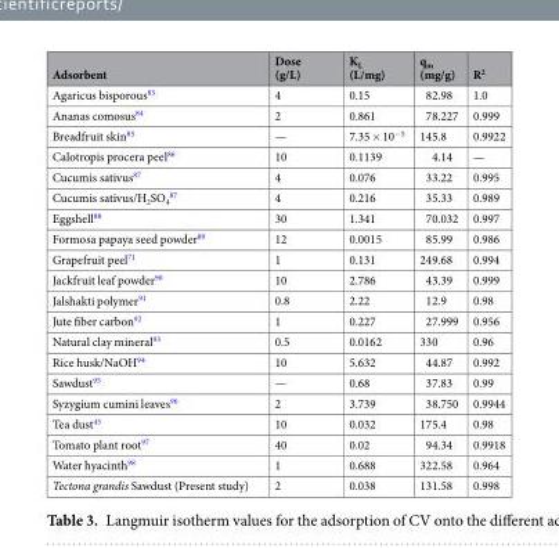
<table><thead><tr><td>Adsorbent</td><td>Dose (g/L)</td><td>K<sub>L</sub> (L/mg)</td><td>q<sub>m</sub> (mg/g)</td><td>R<sup>2</sup></td></tr></thead><tbody><tr><td>Agaricus bisporous<sup>83</sup></td><td>4</td><td>0.15</td><td>82.98</td><td>1.0</td></tr><tr><td>Ananas comosus<sup>84</sup></td><td>2</td><td>0.861</td><td>78.227</td><td>0.999</td></tr><tr><td>Breadfruit skin<sup>85</sup></td><td>—</td><td>7.35 × 10<sup>−5</sup></td><td>145.8</td><td>0.9922</td></tr><tr><td>Calotropis procera peel<sup>86</sup></td><td>10</td><td>0.1139</td><td>4.14</td><td>—</td></tr><tr><td>Cucumis sativus<sup>87</sup></td><td>4</td><td>0.076</td><td>33.22</td><td>0.995</td></tr><tr><td>Cucumis sativus/H<sub>2</sub>SO<sub>4</sub> <sup>87</sup></td><td>4</td><td>0.216</td><td>35.33</td><td>0.989</td></tr><tr><td>Eggshell<sup>88</sup></td><td>30</td><td>1.341</td><td>70.032</td><td>0.997</td></tr><tr><td>Formosa papaya seed powder<sup>89</sup></td><td>12</td><td>0.0015</td><td>85.99</td><td>0.986</td></tr><tr><td>Grapefruit peel<sup>71</sup></td><td>1</td><td>0.131</td><td>249.68</td><td>0.994</td></tr><tr><td>Jackfruit leaf powder<sup>90</sup></td><td>10</td><td>2.786</td><td>43.39</td><td>0.999</td></tr><tr><td>Jalshakti polymer<sup>91</sup></td><td>0.8</td><td>2.22</td><td>12.9</td><td>0.98</td></tr><tr><td>Jute fiber carbon<sup>92</sup></td><td>1</td><td>0.227</td><td>27.999</td><td>0.956</td></tr><tr><td>Natural clay mineral<sup>93</sup></td><td>0.5</td><td>0.0162</td><td>330</td><td>0.96</td></tr><tr><td>Rice husk/NaOH<sup>94</sup></td><td>10</td><td>5.632</td><td>44.87</td><td>0.992</td></tr><tr><td>Sawdust<sup>95</sup></td><td>—</td><td>0.68</td><td>37.83</td><td>0.99</td></tr><tr><td>Syzygium cumini leaves<sup>96</sup></td><td>2</td><td>3.739</td><td>38.750</td><td>0.9944</td></tr><tr><td>Tea dust<sup>45</sup></td><td>10</td><td>0.032</td><td>175.4</td><td>0.98</td></tr><tr><td>Tomato plant root<sup>97</sup></td><td>40</td><td>0.02</td><td>94.34</td><td>0.9918</td></tr><tr><td>Water hyacinth<sup>98</sup></td><td>1</td><td>0.688</td><td>322.58</td><td>0.964</td></tr><tr><td>Tectona grandis Sawdust (Present study)</td><td>2</td><td>0.038</td><td>131.58</td><td>0.998</td></tr></tbody></table>